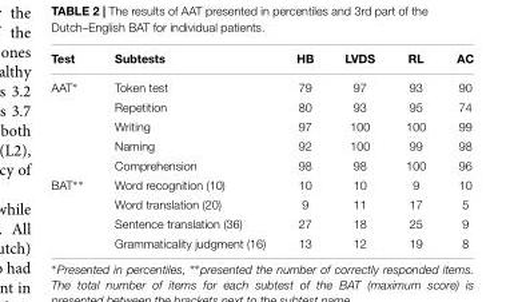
<table><thead><tr><td>Test</td><td>Subtests</td><td>HB</td><td>LVDS</td><td>RL</td><td>AC</td></tr></thead><tbody><tr><td rowspan="5">AAT∗</td><td>Token test</td><td>79</td><td>97</td><td>93</td><td>90</td></tr><tr><td>Repetition</td><td>80</td><td>93</td><td>95</td><td>74</td></tr><tr><td>Writing</td><td>97</td><td>100</td><td>100</td><td>99</td></tr><tr><td>Naming</td><td>92</td><td>100</td><td>99</td><td>98</td></tr><tr><td>Comprehension</td><td>98</td><td>98</td><td>100</td><td>96</td></tr><tr><td rowspan="4">BAT∗∗</td><td>Word recognition (10)</td><td>10</td><td>10</td><td>9</td><td>10</td></tr><tr><td>Word translation (20)</td><td>9</td><td>11</td><td>17</td><td>5</td></tr><tr><td>Sentence translation (36)</td><td>27</td><td>18</td><td>25</td><td>9</td></tr><tr><td>Grammaticality judgment (16)</td><td>13</td><td>12</td><td>19</td><td>8</td></tr></tbody></table>